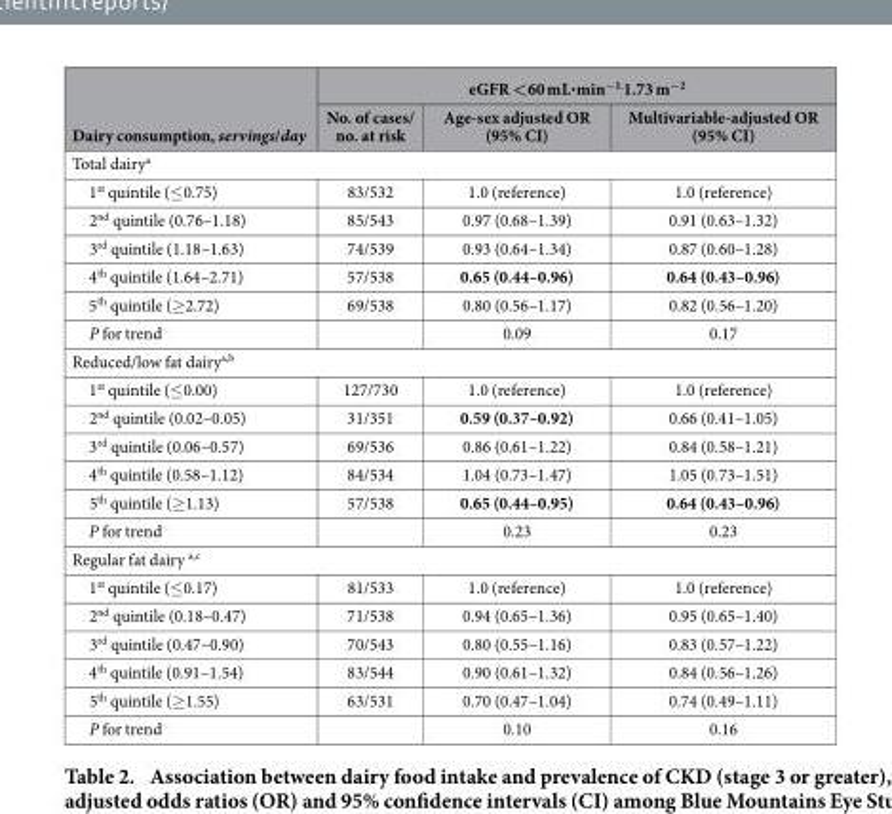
<table><thead><tr><td rowspan="2">Dairy consumption, servings/day</td><td colspan="3">eGFR &lt;60 mL·min<sup>−1.</sup>1.73 m<sup>−2</sup></td></tr><tr><td>No. of cases/ no. at risk</td><td>Age-sex adjusted OR (95% CI)</td><td>Multivariable-adjusted OR (95% CI)</td></tr></thead><tbody><tr><td colspan="4">Total dairy<sup>a</sup></td></tr><tr><td>1<sup>st</sup> quintile (≤ 0.75)</td><td>83/532</td><td>1.0 (reference)</td><td>1.0 (reference)</td></tr><tr><td>2<sup>nd</sup> quintile (0.76–1.18)</td><td>85/543</td><td>0.97 (0.68–1.39)</td><td>0.91 (0.63–1.32)</td></tr><tr><td>3<sup>rd</sup> quintile (1.18–1.63)</td><td>74/539</td><td>0.93 (0.64–1.34)</td><td>0.87 (0.60–1.28)</td></tr><tr><td>4<sup>th</sup> quintile (1.64–2.71)</td><td>57/538</td><td>0.65 (0.44–0.96)</td><td>0.64 (0.43–0.96)</td></tr><tr><td>5<sup>th</sup> quintile (≥ 2.72)</td><td>69/538</td><td>0.80 (0.56–1.17)</td><td>0.82 (0.56–1.20)</td></tr><tr><td>P for trend</td><td></td><td>0.09</td><td>0.17</td></tr><tr><td colspan="4">Reduced/low fat dairy<sup>a,b</sup></td></tr><tr><td>1<sup>st</sup> quintile (≤ 0.00)</td><td>127/730</td><td>1.0 (reference)</td><td>1.0 (reference)</td></tr><tr><td>2<sup>nd</sup> quintile (0.02–0.05)</td><td>31/351</td><td>0.59 (0.37–0.92)</td><td>0.66 (0.41–1.05)</td></tr><tr><td>3<sup>rd</sup> quintile (0.06–0.57)</td><td>69/536</td><td>0.86 (0.61–1.22)</td><td>0.84 (0.58–1.21)</td></tr><tr><td>4<sup>th</sup> quintile (0.58–1.12)</td><td>84/534</td><td>1.04 (0.73–1.47)</td><td>1.05 (0.73–1.51)</td></tr><tr><td>5<sup>th</sup> quintile (≥ 1.13)</td><td>57/538</td><td>0.65 (0.44–0.95)</td><td>0.64 (0.43–0.96)</td></tr><tr><td>P for trend</td><td></td><td>0.23</td><td>0.23</td></tr><tr><td colspan="4">Regular fat dairy <sup>a,c</sup></td></tr><tr><td>1<sup>st</sup> quintile (≤ 0.17)</td><td>81/533</td><td>1.0 (reference)</td><td>1.0 (reference)</td></tr><tr><td>2<sup>nd</sup> quintile (0.18–0.47)</td><td>71/538</td><td>0.94 (0.65–1.36)</td><td>0.95 (0.65–1.40)</td></tr><tr><td>3<sup>rd</sup> quintile (0.47–0.90)</td><td>70/543</td><td>0.80 (0.55–1.16)</td><td>0.83 (0.57–1.22)</td></tr><tr><td>4<sup>th</sup> quintile (0.91–1.54)</td><td>83/544</td><td>0.90 (0.61–1.32)</td><td>0.84 (0.56–1.26)</td></tr><tr><td>5<sup>th</sup> quintile (≥ 1.55)</td><td>63/531</td><td>0.70 (0.47–1.04)</td><td>0.74 (0.49–1.11)</td></tr><tr><td>P for trend</td><td></td><td>0.10</td><td>0.16</td></tr></tbody></table>